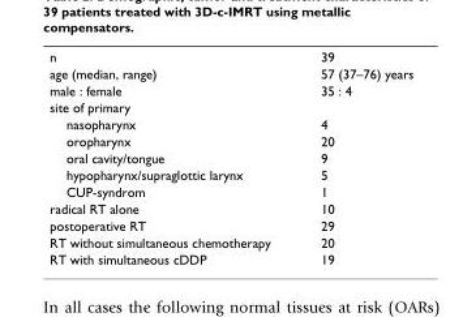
<table><tbody><tr><td>n</td><td>39</td></tr><tr><td>age (median, range)</td><td>57 (37–76) years</td></tr><tr><td>male : female</td><td>35 : 4</td></tr><tr><td colspan="2">site of primary</td></tr><tr><td>nasopharynx</td><td>4</td></tr><tr><td>oropharynx</td><td>20</td></tr><tr><td>oral cavity/tongue</td><td>9</td></tr><tr><td>hypopharynx/supraglottic larynx</td><td>5</td></tr><tr><td>CUP-syndrom</td><td>1</td></tr><tr><td>radical RT alone</td><td>10</td></tr><tr><td>postoperative RT</td><td>29</td></tr><tr><td>RT without simultaneous chemotherapy</td><td>20</td></tr><tr><td>RT with simultaneous cDDP</td><td>19</td></tr></tbody></table>